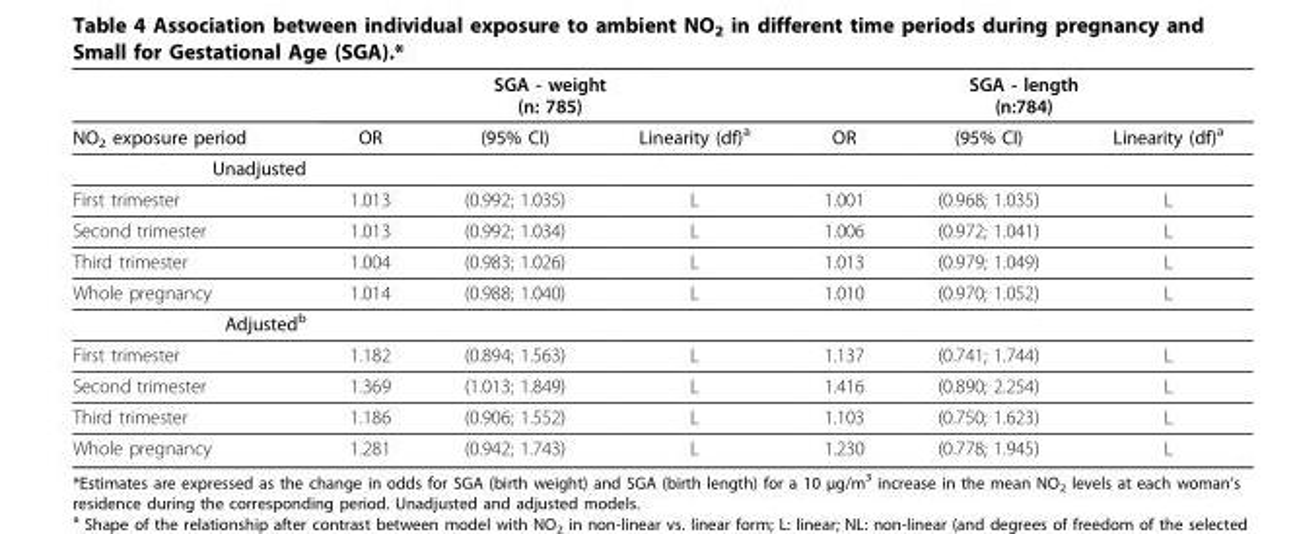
<table><thead><tr><td rowspan="2">NO<sub>2</sub> exposure period</td><td colspan="3">SGA - weight (n: 785)</td><td colspan="3">SGA - length (n:784)</td></tr><tr><td>OR</td><td>(95% CI)</td><td>Linearity (df)<sup>a</sup></td><td>OR</td><td>(95% CI)</td><td>Linearity (df)<sup>a</sup></td></tr></thead><tbody><tr><td colspan="7">Unadjusted</td></tr><tr><td>First trimester</td><td>1.013</td><td>(0.992; 1.035)</td><td>L</td><td>1.001</td><td>(0.968; 1.035)</td><td>L</td></tr><tr><td>Second trimester</td><td>1.013</td><td>(0.992; 1.034)</td><td>L</td><td>1.006</td><td>(0.972; 1.041)</td><td>L</td></tr><tr><td>Third trimester</td><td>1.004</td><td>(0.983; 1.026)</td><td>L</td><td>1.013</td><td>(0.979; 1.049)</td><td>L</td></tr><tr><td>Whole pregnancy</td><td>1.014</td><td>(0.988; 1.040)</td><td>L</td><td>1.010</td><td>(0.970; 1.052)</td><td>L</td></tr><tr><td colspan="7">Adjusted<sup>b</sup></td></tr><tr><td>First trimester</td><td>1.182</td><td>(0.894; 1.563)</td><td>L</td><td>1.137</td><td>(0.741; 1.744)</td><td>L</td></tr><tr><td>Second trimester</td><td>1.369</td><td>(1.013; 1.849)</td><td>L</td><td>1.416</td><td>(0.890; 2.254)</td><td>L</td></tr><tr><td>Third trimester</td><td>1.186</td><td>(0.906; 1.552)</td><td>L</td><td>1.103</td><td>(0.750; 1.623)</td><td>L</td></tr><tr><td>Whole pregnancy</td><td>1.281</td><td>(0.942; 1.743)</td><td>L</td><td>1.230</td><td>(0.778; 1.945)</td><td>L</td></tr></tbody></table>